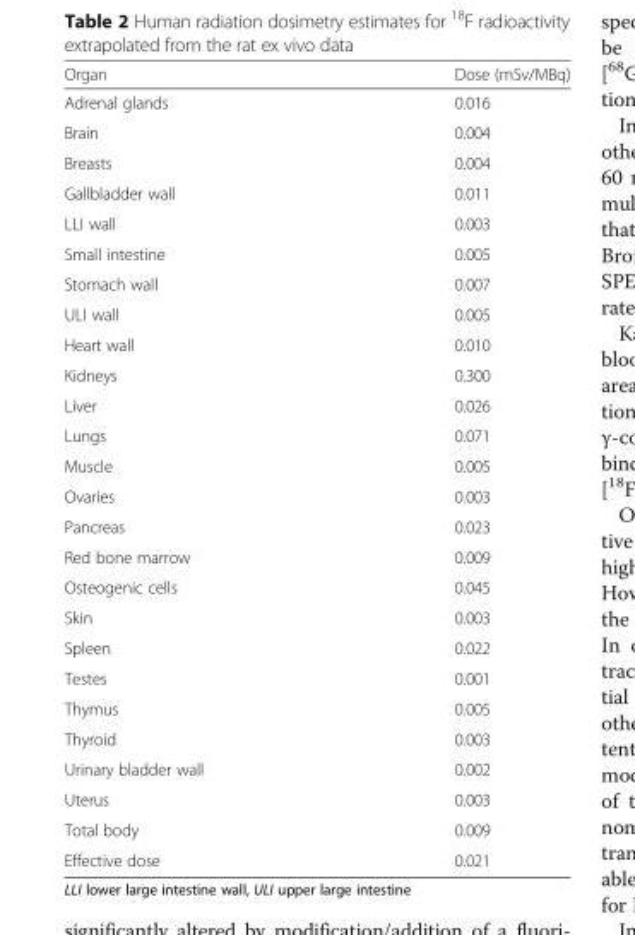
<table><thead><tr><td>Organ</td><td>Dose (mSv/MBq)</td></tr></thead><tbody><tr><td>Adrenal glands</td><td>0.016</td></tr><tr><td>Brain</td><td>0.004</td></tr><tr><td>Breasts</td><td>0.004</td></tr><tr><td>Gallbladder wall</td><td>0.011</td></tr><tr><td>LLI wall</td><td>0.003</td></tr><tr><td>Small intestine</td><td>0.005</td></tr><tr><td>Stomach wall</td><td>0.007</td></tr><tr><td>ULI wall</td><td>0.005</td></tr><tr><td>Heart wall</td><td>0.010</td></tr><tr><td>Kidneys</td><td>0.300</td></tr><tr><td>Liver</td><td>0.026</td></tr><tr><td>Lungs</td><td>0.071</td></tr><tr><td>Muscle</td><td>0.005</td></tr><tr><td>Ovaries</td><td>0.003</td></tr><tr><td>Pancreas</td><td>0.023</td></tr><tr><td>Red bone marrow</td><td>0.009</td></tr><tr><td>Osteogenic cells</td><td>0.045</td></tr><tr><td>Skin</td><td>0.003</td></tr><tr><td>Spleen</td><td>0.022</td></tr><tr><td>Testes</td><td>0.001</td></tr><tr><td>Thymus</td><td>0.005</td></tr><tr><td>Thyroid</td><td>0.003</td></tr><tr><td>Urinary bladder wall</td><td>0.002</td></tr><tr><td>Uterus</td><td>0.003</td></tr><tr><td>Total body</td><td>0.009</td></tr><tr><td>Effective dose</td><td>0.021</td></tr></tbody></table>